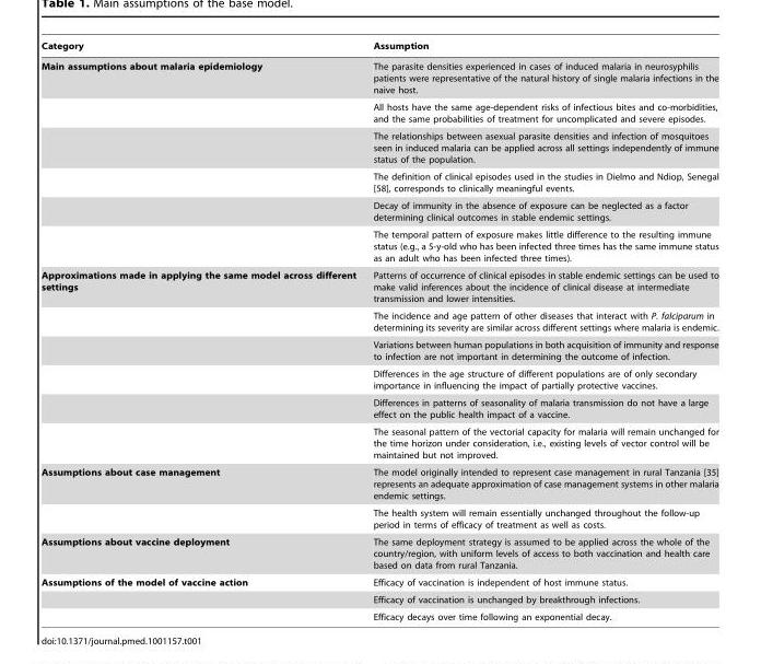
<table><thead><tr><td>Category</td><td>Assumption</td></tr></thead><tbody><tr><td rowspan="6">Main assumptions about malaria epidemiology</td><td>The parasite densities experienced in cases of induced malaria in neurosyphilis patients were representative of the natural history of single malaria infections in the naive host.</td></tr><tr><td>All hosts have the same age-dependent risks of infectious bites and co-morbidities, and the same probabilities of treatment for uncomplicated and severe episodes.</td></tr><tr><td>The relationships between asexual parasite densities and infection of mosquitoes seen in induced malaria can be applied across all settings independently of immune status of the population.</td></tr><tr><td>The definition of clinical episodes used in the studies in Dielmo and Ndiop, Senegal [58], corresponds to clinically meaningful events.</td></tr><tr><td>Decay of immunity in the absence of exposure can be neglected as a factor determining clinical outcomes in stable endemic settings.</td></tr><tr><td>The temporal pattern of exposure makes little difference to the resulting immune status (e.g., a 5-y-old who has been infected three times has the same immune status as an adult who has been infected three times).</td></tr><tr><td rowspan="6">Approximations made in applying the same model across different settings</td><td>Patterns of occurrence of clinical episodes in stable endemic settings can be used to make valid inferences about the incidence of clinical disease at intermediate transmission and lower intensities.</td></tr><tr><td>The incidence and age pattern of other diseases that interact with P. falciparum in determining its severity are similar across different settings where malaria is endemic.</td></tr><tr><td>Variations between human populations in both acquisition of immunity and response to infection are not important in determining the outcome of infection.</td></tr><tr><td>Differences in the age structure of different populations are of only secondary importance in influencing the impact of partially protective vaccines.</td></tr><tr><td>Differences in patterns of seasonality of malaria transmission do not have a large effect on the public health impact of a vaccine.</td></tr><tr><td>The seasonal pattern of the vectorial capacity for malaria will remain unchanged for the time horizon under consideration, i.e., existing levels of vector control will be maintained but not improved.</td></tr><tr><td rowspan="2">Assumptions about case management</td><td>The model originally intended to represent case management in rural Tanzania [35] represents an adequate approximation of case management systems in other malaria endemic settings.</td></tr><tr><td>The health system will remain essentially unchanged throughout the follow-up period in terms of efficacy of treatment as well as costs.</td></tr><tr><td>Assumptions about vaccine deployment</td><td>The same deployment strategy is assumed to be applied across the whole of the country/region, with uniform levels of access to both vaccination and health care based on data from rural Tanzania.</td></tr><tr><td rowspan="3">Assumptions of the model of vaccine action</td><td>Efficacy of vaccination is independent of host immune status.</td></tr><tr><td>Efficacy of vaccination is unchanged by breakthrough infections.</td></tr><tr><td>Efficacy decays over time following an exponential decay.</td></tr></tbody></table>